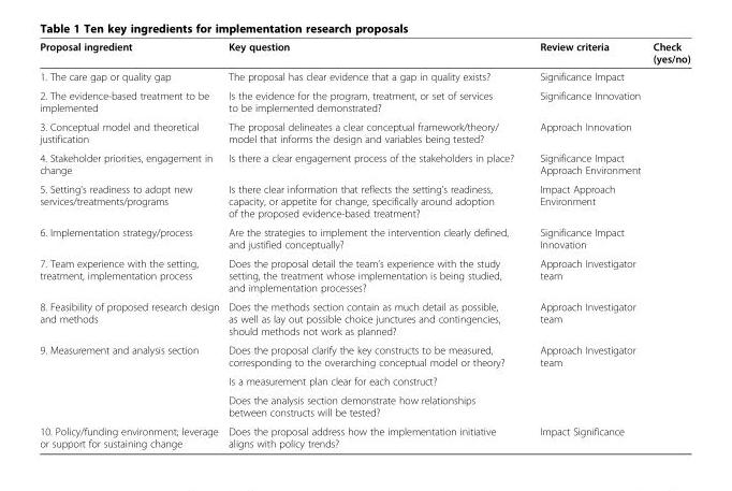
<table><thead><tr><td>Proposal ingredient</td><td>Key question</td><td>Review criteria</td><td>Check (yes/no)</td></tr></thead><tbody><tr><td>1. The care gap or quality gap</td><td>The proposal has clear evidence that a gap in quality exists?</td><td>Significance Impact</td><td></td></tr><tr><td>2. The evidence-based treatment to be implemented</td><td>Is the evidence for the program, treatment, or set of services to be implemented demonstrated?</td><td>Significance Innovation</td><td></td></tr><tr><td>3. Conceptual model and theoretical justification</td><td>The proposal delineates a clear conceptual framework/theory/ model that informs the design and variables being tested?</td><td>Approach Innovation</td><td></td></tr><tr><td>4. Stakeholder priorities, engagement in change</td><td>Is there a clear engagement process of the stakeholders in place?</td><td>Significance Impact Approach Environment</td><td></td></tr><tr><td>5. Setting’s readiness to adopt new services/treatments/programs</td><td>Is there clear information that reflects the setting’s readiness, capacity, or appetite for change, specifically around adoption of the proposed evidence-based treatment?</td><td>Impact Approach Environment</td><td></td></tr><tr><td>6. Implementation strategy/process</td><td>Are the strategies to implement the intervention clearly defined, and justified conceptually?</td><td>Significance Impact Innovation</td><td></td></tr><tr><td>7. Team experience with the setting, treatment, implementation process</td><td>Does the proposal detail the team’s experience with the study setting, the treatment whose implementation is being studied, and implementation processes?</td><td>Approach Investigator team</td><td></td></tr><tr><td>8. Feasibility of proposed research design and methods</td><td>Does the methods section contain as much detail as possible, as well as lay out possible choice junctures and contingencies, should methods not work as planned?</td><td>Approach Investigator team</td><td></td></tr><tr><td rowspan="3">9. Measurement and analysis section</td><td>Does the proposal clarify the key constructs to be measured, corresponding to the overarching conceptual model or theory?</td><td rowspan="3">Approach Investigator team</td><td rowspan="3"></td></tr><tr><td>Is a measurement plan clear for each construct?</td></tr><tr><td>Does the analysis section demonstrate how relationships between constructs will be tested?</td></tr><tr><td>10. Policy/funding environment; leverage or support for sustaining change</td><td>Does the proposal address how the implementation initiative aligns with policy trends?</td><td>Impact Significance</td><td></td></tr></tbody></table>